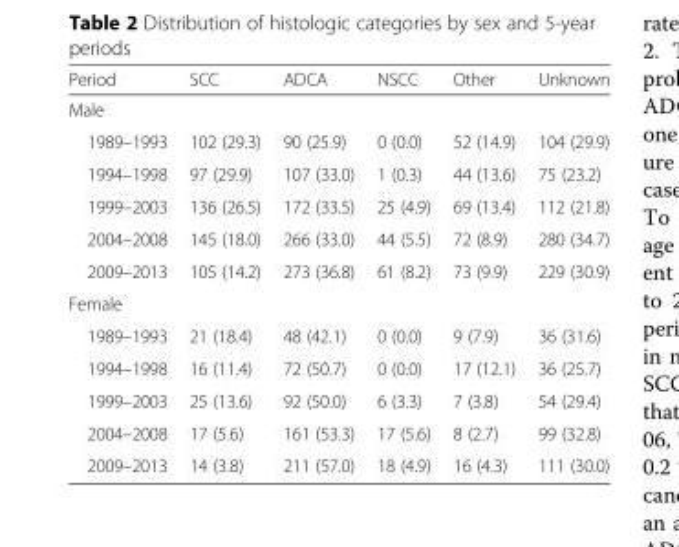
<table><thead><tr><td>Period</td><td>SCC</td><td>ADCA</td><td>NSCC</td><td>Other</td><td>Unknown</td></tr></thead><tbody><tr><td colspan="6">Male</td></tr><tr><td>1989–1993</td><td>102 (29.3)</td><td>90 (25.9)</td><td>0 (0.0)</td><td>52 (14.9)</td><td>104 (29.9)</td></tr><tr><td>1994–1998</td><td>97 (29.9)</td><td>107 (33.0)</td><td>1 (0.3)</td><td>44 (13.6)</td><td>75 (23.2)</td></tr><tr><td>1999–2003</td><td>136 (26.5)</td><td>172 (33.5)</td><td>25 (4.9)</td><td>69 (13.4)</td><td>112 (21.8)</td></tr><tr><td>2004–2008</td><td>145 (18.0)</td><td>266 (33.0)</td><td>44 (5.5)</td><td>72 (8.9)</td><td>280 (34.7)</td></tr><tr><td>2009–2013</td><td>105 (14.2)</td><td>273 (36.8)</td><td>61 (8.2)</td><td>73 (9.9)</td><td>229 (30.9)</td></tr><tr><td colspan="6">Female</td></tr><tr><td>1989–1993</td><td>21 (18.4)</td><td>48 (42.1)</td><td>0 (0.0)</td><td>9 (7.9)</td><td>36 (31.6)</td></tr><tr><td>1994–1998</td><td>16 (11.4)</td><td>72 (50.7)</td><td>0 (0.0)</td><td>17 (12.1)</td><td>36 (25.7)</td></tr><tr><td>1999–2003</td><td>25 (13.6)</td><td>92 (50.0)</td><td>6 (3.3)</td><td>7 (3.8)</td><td>54 (29.4)</td></tr><tr><td>2004–2008</td><td>17 (5.6)</td><td>161 (53.3)</td><td>17 (5.6)</td><td>8 (2.7)</td><td>99 (32.8)</td></tr><tr><td>2009–2013</td><td>14 (3.8)</td><td>211 (57.0)</td><td>18 (4.9)</td><td>16 (4.3)</td><td>111 (30.0)</td></tr></tbody></table>